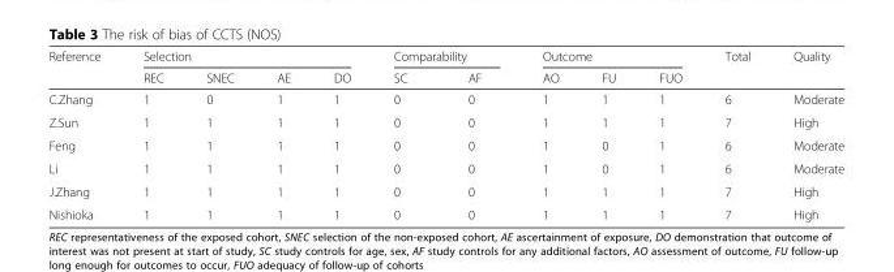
<table><thead><tr><td rowspan="2">Reference</td><td colspan="4">Selection</td><td colspan="2">Comparability</td><td colspan="3">Outcome</td><td rowspan="2">Total</td><td rowspan="2">Quality</td></tr><tr><td>REC</td><td>SNEC</td><td>AE</td><td>DO</td><td>SC</td><td>AF</td><td>AO</td><td>FU</td><td>FUO</td></tr></thead><tbody><tr><td>C.Zhang</td><td>1</td><td>0</td><td>1</td><td>1</td><td>0</td><td>0</td><td>1</td><td>1</td><td>1</td><td>6</td><td>Moderate</td></tr><tr><td>Z.Sun</td><td>1</td><td>1</td><td>1</td><td>1</td><td>0</td><td>0</td><td>1</td><td>1</td><td>1</td><td>7</td><td>High</td></tr><tr><td>Feng</td><td>1</td><td>1</td><td>1</td><td>1</td><td>0</td><td>0</td><td>1</td><td>0</td><td>1</td><td>6</td><td>Moderate</td></tr><tr><td>Li</td><td>1</td><td>1</td><td>1</td><td>1</td><td>0</td><td>0</td><td>1</td><td>0</td><td>1</td><td>6</td><td>Moderate</td></tr><tr><td>J.Zhang</td><td>1</td><td>1</td><td>1</td><td>1</td><td>0</td><td>0</td><td>1</td><td>1</td><td>1</td><td>7</td><td>High</td></tr><tr><td>Nishioka</td><td>1</td><td>1</td><td>1</td><td>1</td><td>0</td><td>0</td><td>1</td><td>1</td><td>1</td><td>7</td><td>High</td></tr></tbody></table>